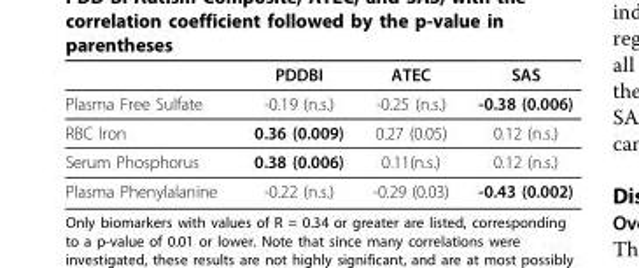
<table><thead><tr><td></td><td>PDDBI</td><td>ATEC</td><td>SAS</td></tr></thead><tbody><tr><td>Plasma Free Sulfate</td><td>-0.19 (n.s.)</td><td>-0.25 (n.s.)</td><td>-0.38 (0.006)</td></tr><tr><td>RBC Iron</td><td>0.36 (0.009)</td><td>0.27 (0.05)</td><td>0.12 (n.s.)</td></tr><tr><td>Serum Phosphorus</td><td>0.38 (0.006)</td><td>0.11(n.s.)</td><td>0.12 (n.s.)</td></tr><tr><td>Plasma Phenylalanine</td><td>-0.22 (n.s.)</td><td>-0.29 (0.03)</td><td>-0.43 (0.002)</td></tr></tbody></table>